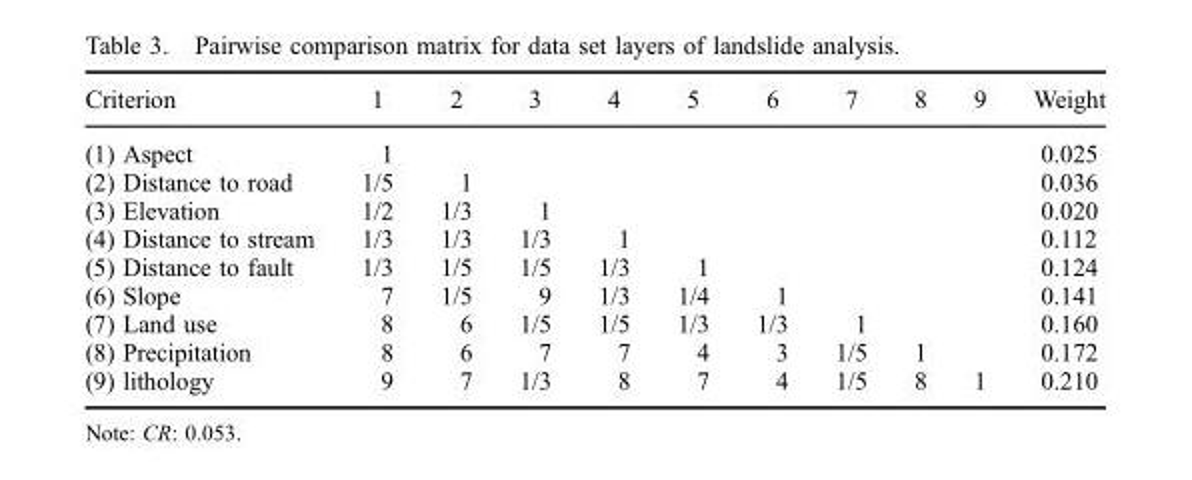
<table><thead><tr><td>Criterion</td><td>1</td><td>2</td><td>3</td><td>4</td><td>5</td><td>6</td><td>7</td><td>8</td><td>9</td><td>Weight</td></tr></thead><tbody><tr><td>(1) Aspect</td><td>1</td><td></td><td></td><td></td><td></td><td></td><td></td><td></td><td></td><td>0.025</td></tr><tr><td>(2) Distance to road</td><td>1/5</td><td>1</td><td></td><td></td><td></td><td></td><td></td><td></td><td></td><td>0.036</td></tr><tr><td>(3) Elevation</td><td>1/2</td><td>1/3</td><td>1</td><td></td><td></td><td></td><td></td><td></td><td></td><td>0.020</td></tr><tr><td>(4) Distance to stream</td><td>1/3</td><td>1/3</td><td>1/3</td><td>1</td><td></td><td></td><td></td><td></td><td></td><td>0.112</td></tr><tr><td>(5) Distance to fault</td><td>1/3</td><td>1/5</td><td>1/5</td><td>1/3</td><td>1</td><td></td><td></td><td></td><td></td><td>0.124</td></tr><tr><td>(6) Slope</td><td>7</td><td>1/5</td><td>9</td><td>1/3</td><td>1/4</td><td>1</td><td></td><td></td><td></td><td>0.141</td></tr><tr><td>(7) Land use</td><td>8</td><td>6</td><td>1/5</td><td>1/5</td><td>1/3</td><td>1/3</td><td>1</td><td></td><td></td><td>0.160</td></tr><tr><td>(8) Precipitation</td><td>8</td><td>6</td><td>7</td><td>7</td><td>4</td><td>3</td><td>1/5</td><td>1</td><td></td><td>0.172</td></tr><tr><td>(9) lithology</td><td>9</td><td>7</td><td>1/3</td><td>8</td><td>7</td><td>4</td><td>1/5</td><td>8</td><td>1</td><td>0.210</td></tr></tbody></table>